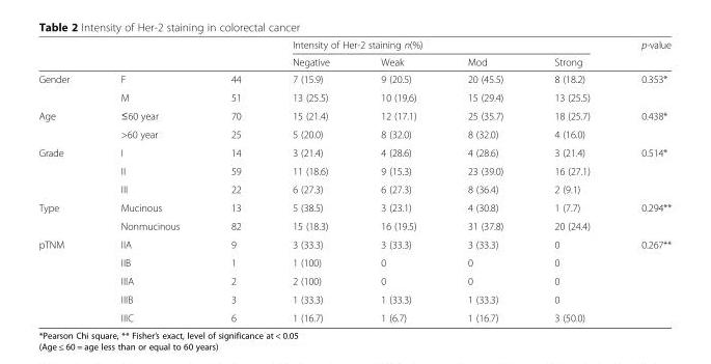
<table><thead><tr><td rowspan="2"></td><td rowspan="2"></td><td rowspan="2"></td><td colspan="4">Intensity of Her-2 staining n(%)</td><td rowspan="2">p-value</td></tr><tr><td>Negative</td><td>Weak</td><td>Mod</td><td>Strong</td></tr></thead><tbody><tr><td rowspan="2">Gender</td><td>F</td><td>44</td><td>7 (15.9)</td><td>9 (20.5)</td><td>20 (45.5)</td><td>8 (18.2)</td><td>0.353*</td></tr><tr><td>M</td><td>51</td><td>13 (25.5)</td><td>10 (19,6)</td><td>15 (29.4)</td><td>13 (25.5)</td><td></td></tr><tr><td rowspan="2">Age</td><td>≤60 year</td><td>70</td><td>15 (21.4)</td><td>12 (17.1)</td><td>25 (35.7)</td><td>18 (25.7)</td><td>0.438*</td></tr><tr><td>&gt;60 year</td><td>25</td><td>5 (20.0)</td><td>8 (32.0)</td><td>8 (32.0)</td><td>4 (16.0)</td><td></td></tr><tr><td rowspan="3">Grade</td><td>I</td><td>14</td><td>3 (21.4)</td><td>4 (28.6)</td><td>4 (28.6)</td><td>3 (21.4)</td><td>0.514*</td></tr><tr><td>II</td><td>59</td><td>11 (18.6)</td><td>9 (15.3)</td><td>23 (39.0)</td><td>16 (27.1)</td><td></td></tr><tr><td>III</td><td>22</td><td>6 (27.3)</td><td>6 (27.3)</td><td>8 (36.4)</td><td>2 (9.1)</td><td></td></tr><tr><td rowspan="2">Type</td><td>Mucinous</td><td>13</td><td>5 (38.5)</td><td>3 (23.1)</td><td>4 (30.8)</td><td>1 (7.7)</td><td>0.294**</td></tr><tr><td>Nonmucinous</td><td>82</td><td>15 (18.3)</td><td>16 (19.5)</td><td>31 (37.8)</td><td>20 (24.4)</td><td></td></tr><tr><td rowspan="5">pTNM</td><td>IIA</td><td>9</td><td>3 (33.3)</td><td>3 (33.3)</td><td>3 (33.3)</td><td>0</td><td>0.267**</td></tr><tr><td>IIB</td><td>1</td><td>1 (100)</td><td>0</td><td>0</td><td>0</td><td></td></tr><tr><td>IIIA</td><td>2</td><td>2 (100)</td><td>0</td><td>0</td><td>0</td><td></td></tr><tr><td>IIIB</td><td>3</td><td>1 (33.3)</td><td>1 (33.3)</td><td>1 (33.3)</td><td>0</td><td></td></tr><tr><td>IIIC</td><td>6</td><td>1 (16.7)</td><td>1 (6.7)</td><td>1 (16.7)</td><td>3 (50.0)</td><td></td></tr></tbody></table>